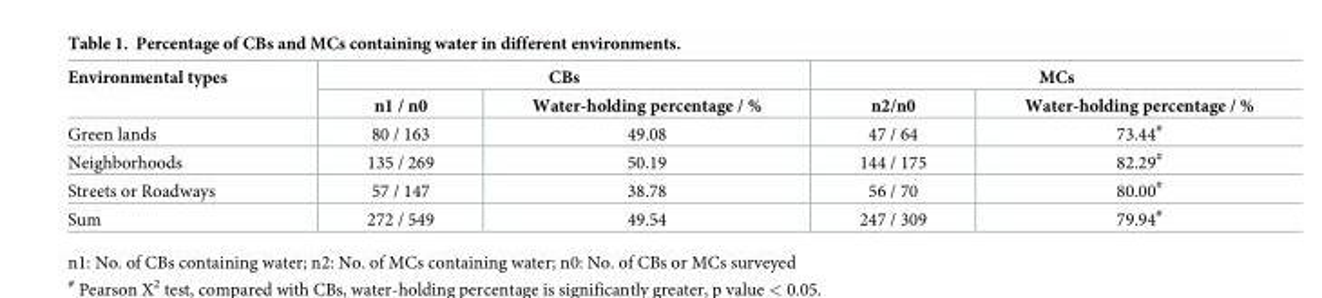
<table><thead><tr><td rowspan="2">Environmental types</td><td colspan="2">CBs</td><td colspan="2">MCs</td></tr><tr><td>n1 / n0</td><td>Water-holding percentage / %</td><td>n2/n0</td><td>Water-holding percentage / %</td></tr></thead><tbody><tr><td>Green lands</td><td>80 / 163</td><td>49.08</td><td>47 / 64</td><td>73.44<sup>#</sup></td></tr><tr><td>Neighborhoods</td><td>135 / 269</td><td>50.19</td><td>144 / 175</td><td>82.29<sup>#</sup></td></tr><tr><td>Streets or Roadways</td><td>57 / 147</td><td>38.78</td><td>56 / 70</td><td>80.00<sup>#</sup></td></tr><tr><td>Sum</td><td>272 / 549</td><td>49.54</td><td>247 / 309</td><td>79.94<sup>#</sup></td></tr></tbody></table>